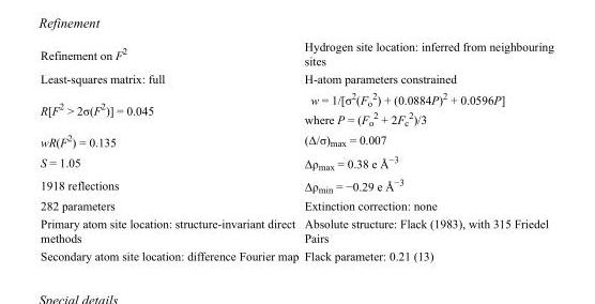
<table><tbody><tr><td>Refinement on F<sup>2</sup></td><td>Hydrogen site location: inferred from neighbouring sites</td></tr><tr><td>Least-squares matrix: full</td><td>H-atom parameters constrained</td></tr><tr><td>R[F<sup>2</sup> &gt; 2σ(F<sup>2</sup>)] = 0.045</td><td>w = 1/[σ<sup>2</sup>(F<sub>o</sub> <sup>2</sup>) + (0.0884P)<sup>2</sup> + 0.0596P] where P = (F<sub>o</sub> <sup>2</sup> + 2F<sub>c</sub> <sup>2</sup>)/3</td></tr><tr><td>wR(F<sup>2</sup>) = 0.135</td><td>(Δ/σ)<sub>max</sub> = 0.007</td></tr><tr><td>S = 1.05</td><td>Δρ<sub>max</sub> = 0.38 e Å<sup>−3</sup></td></tr><tr><td>1918 reflections</td><td>Δρ<sub>min</sub> = −0.29 e Å<sup>−3</sup></td></tr><tr><td>282 parameters</td><td>Extinction correction: none</td></tr><tr><td>Primary atom site location: structure-invariant direct methods</td><td>Absolute structure: Flack (1983), with 315 Friedel Pairs</td></tr><tr><td>Secondary atom site location: difference Fourier map</td><td>Flack parameter: 0.21 (13)</td></tr></tbody></table>